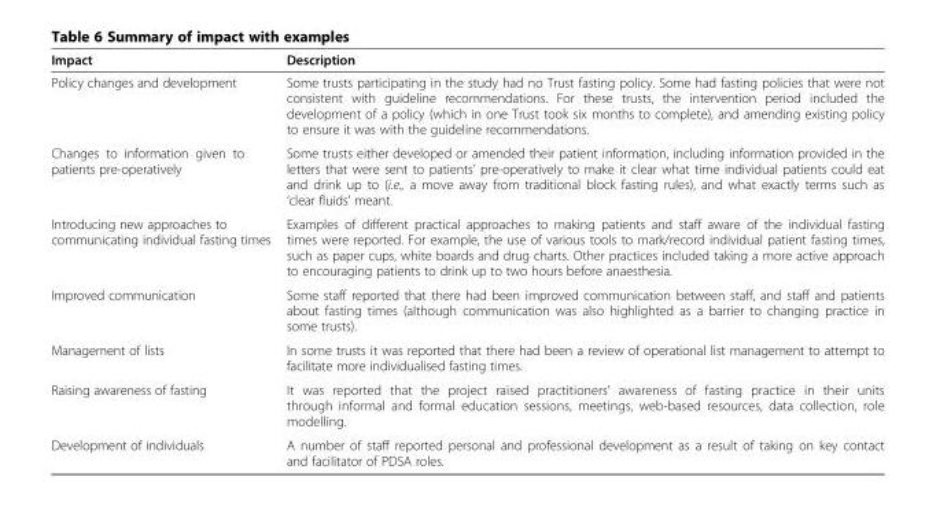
<table><thead><tr><td>Impact</td><td>Description</td></tr></thead><tbody><tr><td>Policy changes and development</td><td>Some trusts participating in the study had no Trust fasting policy. Some had fasting policies that were not consistent with guideline recommendations. For these trusts, the intervention period included the development of a policy (which in one Trust took six months to complete), and amending existing policy to ensure it was with the guideline recommendations.</td></tr><tr><td>Changes to information given to patients pre-operatively</td><td>Some trusts either developed or amended their patient information, including information provided in the letters that were sent to patients’ pre-operatively to make it clear what time individual patients could eat and drink up to (i.e., a move away from traditional block fasting rules), and what exactly terms such as ‘clear fluids’ meant.</td></tr><tr><td>Introducing new approaches to communicating individual fasting times</td><td>Examples of different practical approaches to making patients and staff aware of the individual fasting times were reported. For example, the use of various tools to mark/record individual patient fasting times, such as paper cups, white boards and drug charts. Other practices included taking a more active approach to encouraging patients to drink up to two hours before anaesthesia.</td></tr><tr><td>Improved communication</td><td>Some staff reported that there had been improved communication between staff, and staff and patients about fasting times (although communication was also highlighted as a barrier to changing practice in some trusts).</td></tr><tr><td>Management of lists</td><td>In some trusts it was reported that there had been a review of operational list management to attempt to facilitate more individualised fasting times.</td></tr><tr><td>Raising awareness of fasting</td><td>It was reported that the project raised practitioners’ awareness of fasting practice in their units through informal and formal education sessions, meetings, web-based resources, data collection, role modelling.</td></tr><tr><td>Development of individuals</td><td>A number of staff reported personal and professional development as a result of taking on key contact and facilitator of PDSA roles.</td></tr></tbody></table>